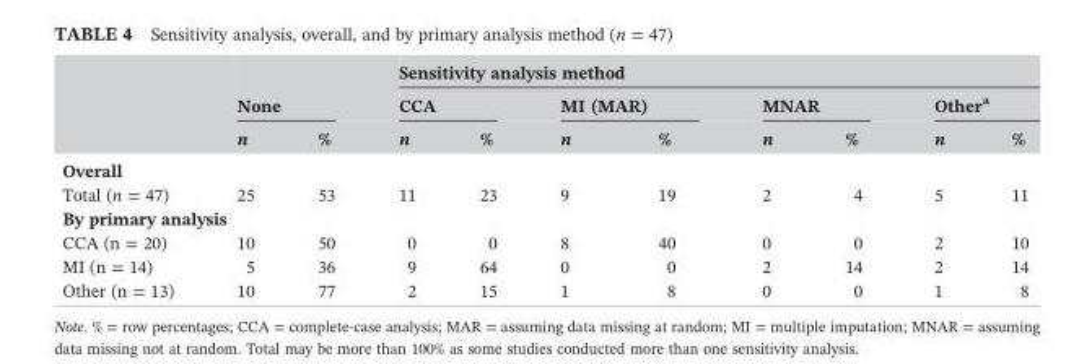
<table><thead><tr><td rowspan="3"></td><td rowspan="2" colspan="2">None</td><td colspan="8">Sensitivity analysis method</td></tr><tr><td colspan="2">CCA</td><td colspan="2">MI (MAR)</td><td colspan="2">MNAR</td><td colspan="2">Other<sup>a</sup></td></tr><tr><td>n</td><td>%</td><td>n</td><td>%</td><td>n</td><td>%</td><td>n</td><td>%</td><td>n</td><td>%</td></tr></thead><tbody><tr><td colspan="11">Overall</td></tr><tr><td>Total (n = 47)</td><td>25</td><td>53</td><td>11</td><td>23</td><td>9</td><td>19</td><td>2</td><td>4</td><td>5</td><td>11</td></tr><tr><td colspan="11">By primary analysis</td></tr><tr><td>CCA (n = 20)</td><td>10</td><td>50</td><td>0</td><td>0</td><td>8</td><td>40</td><td>0</td><td>0</td><td>2</td><td>10</td></tr><tr><td>MI (n = 14)</td><td>5</td><td>36</td><td>9</td><td>64</td><td>0</td><td>0</td><td>2</td><td>14</td><td>2</td><td>14</td></tr><tr><td>Other (n = 13)</td><td>10</td><td>77</td><td>2</td><td>15</td><td>1</td><td>8</td><td>0</td><td>0</td><td>1</td><td>8</td></tr></tbody></table>